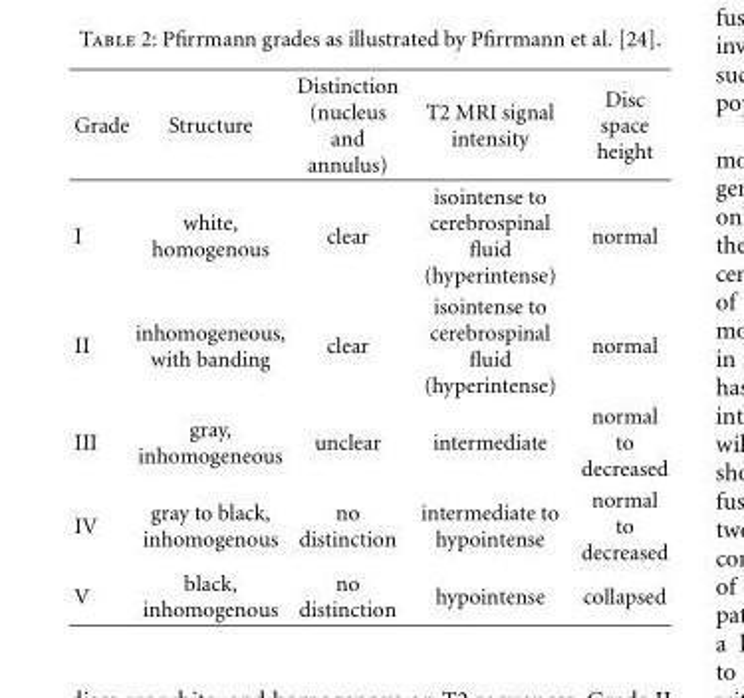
<table><thead><tr><td>Grade</td><td>Structure</td><td>Distinction (nucleus and annulus)</td><td>T2 MRI signal intensity</td><td>Disc space height</td></tr></thead><tbody><tr><td>I</td><td>white, homogenous</td><td>clear</td><td>isointense to cerebrospinal fluid (hyperintense)</td><td>normal</td></tr><tr><td>II</td><td>inhomogeneous, with banding</td><td>clear</td><td>isointense to cerebrospinal fluid (hyperintense)</td><td>normal</td></tr><tr><td>III</td><td>gray, inhomogeneous</td><td>unclear</td><td>intermediate</td><td>normal to decreased</td></tr><tr><td>IV</td><td>gray to black, inhomogenous</td><td>no distinction</td><td>intermediate to hypointense</td><td>normal to decreased</td></tr><tr><td>V</td><td>black, inhomogenous</td><td>no distinction</td><td>hypointense</td><td>collapsed</td></tr></tbody></table>